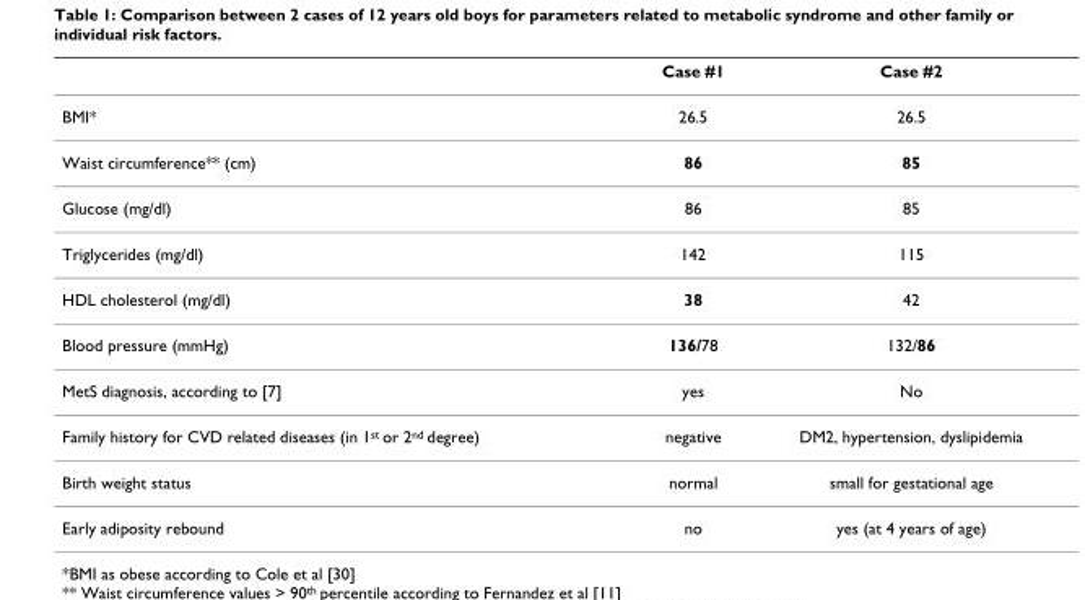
<table><thead><tr><td></td><td>Case #1</td><td>Case #2</td></tr></thead><tbody><tr><td>BMI*</td><td>26.5</td><td>26.5</td></tr><tr><td>Waist circumference** (cm)</td><td>86</td><td>85</td></tr><tr><td>Glucose (mg/dl)</td><td>86</td><td>85</td></tr><tr><td>Triglycerides (mg/dl)</td><td>142</td><td>115</td></tr><tr><td>HDL cholesterol (mg/dl)</td><td>38</td><td>42</td></tr><tr><td>Blood pressure (mmHg)</td><td>136/78</td><td>132/86</td></tr><tr><td>MetS diagnosis, according to [7]</td><td>yes</td><td>No</td></tr><tr><td>Family history for CVD related diseases (in 1<sup>st</sup> or 2<sup>nd</sup> degree)</td><td>negative</td><td>DM2, hypertension, dyslipidemia</td></tr><tr><td>Birth weight status</td><td>normal</td><td>small for gestational age</td></tr><tr><td>Early adiposity rebound</td><td>no</td><td>yes (at 4 years of age)</td></tr></tbody></table>